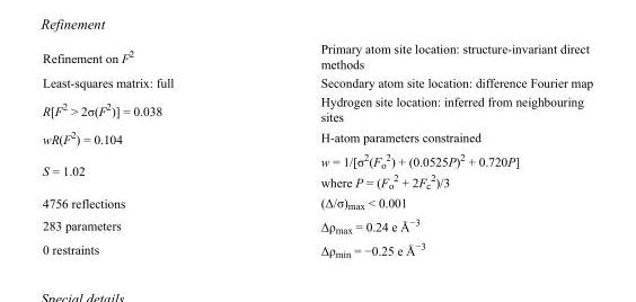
<table><tbody><tr><td>Refinement on F<sup>2</sup></td><td>Primary atom site location: structure-invariant direct methods</td></tr><tr><td>Least-squares matrix: full</td><td>Secondary atom site location: difference Fourier map</td></tr><tr><td>R[F<sup>2</sup> &gt; 2σ(F<sup>2</sup>)] = 0.038</td><td>Hydrogen site location: inferred from neighbouring sites</td></tr><tr><td>wR(F<sup>2</sup>) = 0.104</td><td>H-atom parameters constrained</td></tr><tr><td>S = 1.02</td><td>w = 1/[σ<sup>2</sup>(F<sub>o</sub> <sup>2</sup>) + (0.0525P)<sup>2</sup> + 0.720P] where P = (F<sub>o</sub> <sup>2</sup> + 2F<sub>c</sub> <sup>2</sup>)/3</td></tr><tr><td>4756 reflections</td><td>(Δ/σ)<sub>max</sub> &lt; 0.001</td></tr><tr><td>283 parameters</td><td>Δρ<sub>max</sub> = 0.24 e Å<sup>−3</sup></td></tr><tr><td>0 restraints</td><td>Δρ<sub>min</sub> = −0.25 e Å<sup>−3</sup></td></tr></tbody></table>